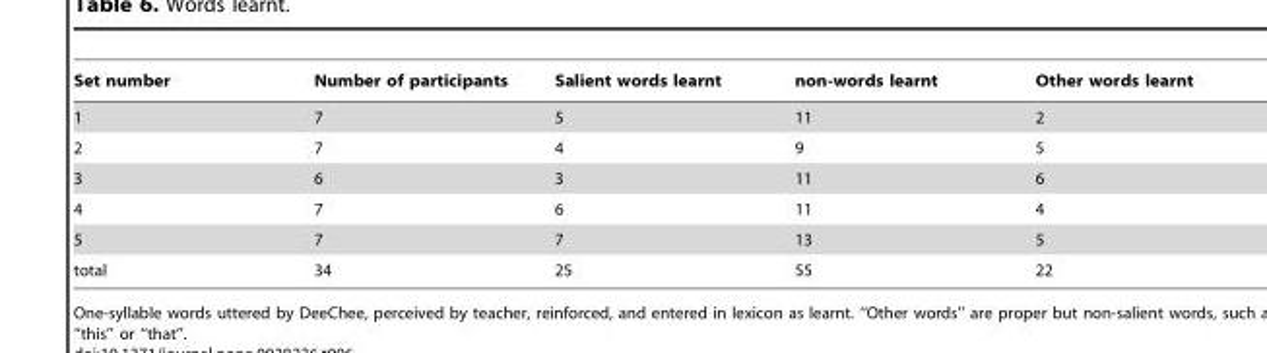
<table><thead><tr><td>Set number</td><td>Number of participants</td><td>Salient words learnt</td><td>non-words learnt</td><td>Other words learnt</td></tr></thead><tbody><tr><td>1</td><td>7</td><td>5</td><td>11</td><td>2</td></tr><tr><td>2</td><td>7</td><td>4</td><td>9</td><td>5</td></tr><tr><td>3</td><td>6</td><td>3</td><td>11</td><td>6</td></tr><tr><td>4</td><td>7</td><td>6</td><td>11</td><td>4</td></tr><tr><td>5</td><td>7</td><td>7</td><td>13</td><td>5</td></tr><tr><td>total</td><td>34</td><td>25</td><td>55</td><td>22</td></tr></tbody></table>